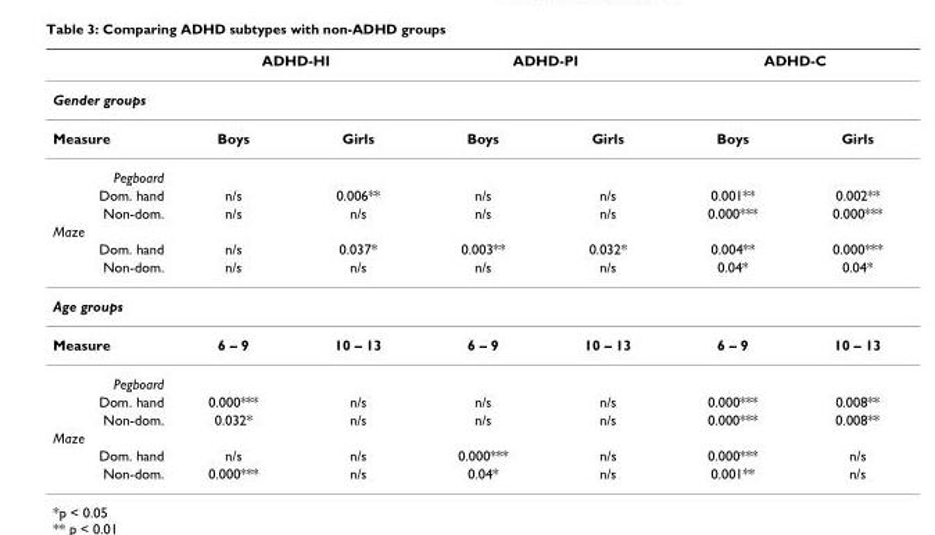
<table><thead><tr><td></td><td colspan="2">ADHD-HI</td><td colspan="2">ADHD-PI</td><td colspan="2">ADHD-C</td></tr><tr><td colspan="7">Gender groups</td></tr><tr><td>Measure</td><td>Boys</td><td>Girls</td><td>Boys</td><td>Girls</td><td>Boys</td><td>Girls</td></tr></thead><tbody><tr><td colspan="7">Pegboard</td></tr><tr><td>Dom. hand</td><td>n/s</td><td>0.006**</td><td>n/s</td><td>n/s</td><td>0.001**</td><td>0.002**</td></tr><tr><td>Non-dom.</td><td>n/s</td><td>n/s</td><td>n/s</td><td>n/s</td><td>0.000***</td><td>0.000***</td></tr><tr><td colspan="7">Maze</td></tr><tr><td>Dom. hand</td><td>n/s</td><td>0.037*</td><td>0.003**</td><td>0.032*</td><td>0.004**</td><td>0.000***</td></tr><tr><td>Non-dom.</td><td>n/s</td><td>n/s</td><td>n/s</td><td>n/s</td><td>0.04*</td><td>0.04*</td></tr><tr><td colspan="7">Age groups</td></tr><tr><td>Measure</td><td>6 – 9</td><td>10 – 13</td><td>6 – 9</td><td>10 – 13</td><td>6 – 9</td><td>10 – 13</td></tr><tr><td colspan="7">Pegboard</td></tr><tr><td>Dom. hand</td><td>0.000***</td><td>n/s</td><td>n/s</td><td>n/s</td><td>0.000***</td><td>0.008**</td></tr><tr><td>Non-dom.</td><td>0.032*</td><td>n/s</td><td>n/s</td><td>n/s</td><td>0.000***</td><td>0.008**</td></tr><tr><td colspan="7">Maze</td></tr><tr><td>Dom. hand</td><td>n/s</td><td>n/s</td><td>0.000***</td><td>n/s</td><td>0.000***</td><td>n/s</td></tr><tr><td>Non-dom.</td><td>0.000***</td><td>n/s</td><td>0.04*</td><td>n/s</td><td>0.001**</td><td>n/s</td></tr></tbody></table>